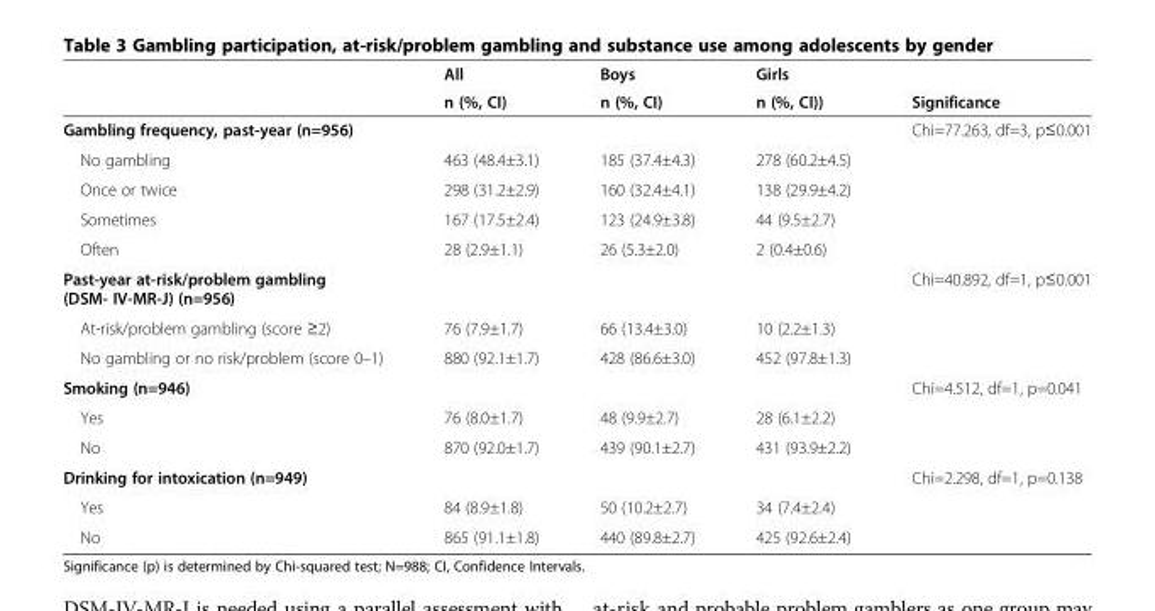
<table><thead><tr><td rowspan="2"></td><td rowspan="2">All n (%, CI)</td><td rowspan="2">Boys n (%, CI)</td><td rowspan="2">Girls n (%, CI))</td><td rowspan="2">Significance</td></tr><tr></tr></thead><tbody><tr><td>Gambling frequency, past-year (n=956)</td><td></td><td></td><td></td><td>Chi=77.263, df=3, p≤0.001</td></tr><tr><td>No gambling</td><td>463 (48.4±3.1)</td><td>185 (37.4±4.3)</td><td>278 (60.2±4.5)</td><td></td></tr><tr><td>Once or twice</td><td>298 (31.2±2.9)</td><td>160 (32.4±4.1)</td><td>138 (29.9±4.2)</td><td></td></tr><tr><td>Sometimes</td><td>167 (17.5±2.4)</td><td>123 (24.9±3.8)</td><td>44 (9.5±2.7)</td><td></td></tr><tr><td>Often</td><td>28 (2.9±1.1)</td><td>26 (5.3±2.0)</td><td>2 (0.4±0.6)</td><td></td></tr><tr><td>Past-year at-risk/problem gambling (DSM- IV-MR-J) (n=956)</td><td></td><td></td><td></td><td>Chi=40.892, df=1, p≤0.001</td></tr><tr><td>At-risk/problem gambling (score ≥2)</td><td>76 (7.9±1.7)</td><td>66 (13.4±3.0)</td><td>10 (2.2±1.3)</td><td></td></tr><tr><td>No gambling or no risk/problem (score 0–1)</td><td>880 (92.1±1.7)</td><td>428 (86.6±3.0)</td><td>452 (97.8±1.3)</td><td></td></tr><tr><td>Smoking (n=946)</td><td></td><td></td><td></td><td>Chi=4.512, df=1, p=0.041</td></tr><tr><td>Yes</td><td>76 (8.0±1.7)</td><td>48 (9.9±2.7)</td><td>28 (6.1±2.2)</td><td></td></tr><tr><td>No</td><td>870 (92.0±1.7)</td><td>439 (90.1±2.7)</td><td>431 (93.9±2.2)</td><td></td></tr><tr><td>Drinking for intoxication (n=949)</td><td></td><td></td><td></td><td>Chi=2.298, df=1, p=0.138</td></tr><tr><td>Yes</td><td>84 (8.9±1.8)</td><td>50 (10.2±2.7)</td><td>34 (7.4±2.4)</td><td></td></tr><tr><td>No</td><td>865 (91.1±1.8)</td><td>440 (89.8±2.7)</td><td>425 (92.6±2.4)</td><td></td></tr></tbody></table>